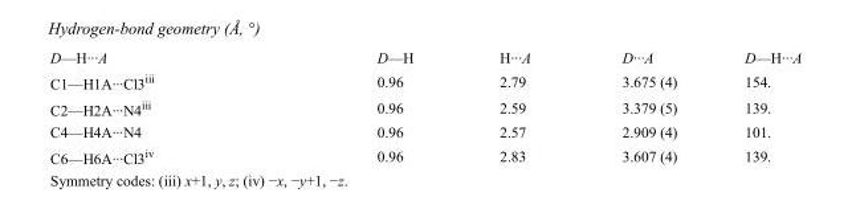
<table><tbody><tr><td>D—H···A</td><td>D—H</td><td>H···A</td><td>D···A</td><td>D—H···A</td></tr><tr><td>C1—H1A···Cl3<sup>iii</sup></td><td>0.96</td><td>2.79</td><td>3.675 (4)</td><td>154.</td></tr><tr><td>C2—H2A···N4<sup>iii</sup></td><td>0.96</td><td>2.59</td><td>3.379 (5)</td><td>139.</td></tr><tr><td>C4—H4A···N4</td><td>0.96</td><td>2.57</td><td>2.909 (4)</td><td>101.</td></tr><tr><td>C6—H6A···Cl3<sup>iv</sup></td><td>0.96</td><td>2.83</td><td>3.607 (4)</td><td>139.</td></tr></tbody></table>